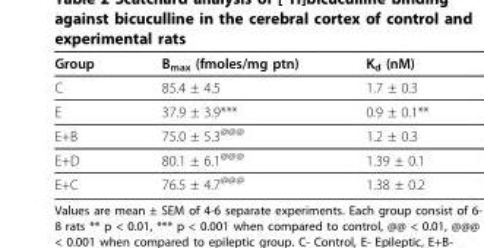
<table><thead><tr><td>Group</td><td>B<sub>max</sub> (fmoles/mg ptn)</td><td>K<sub>d</sub> (nM)</td></tr></thead><tbody><tr><td>C</td><td>85.4 ± 4.5</td><td>1.7 ± 0.3</td></tr><tr><td>E</td><td>37.9 ± 3.9***</td><td>0.9 ± 0.1**</td></tr><tr><td>E+B</td><td>75.0 ± 5.3<sup>@@@</sup></td><td>1.2 ± 0.3</td></tr><tr><td>E+D</td><td>80.1 ± 6.1<sup>@@@</sup></td><td>1.39 ± 0.1</td></tr><tr><td>E+C</td><td>76.5 ± 4.7<sup>@@@</sup></td><td>1.38 ± 0.2</td></tr></tbody></table>